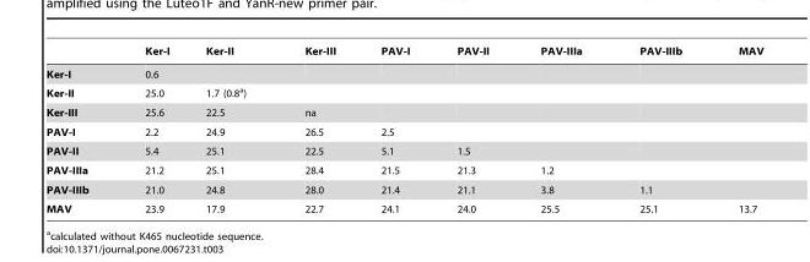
<table><thead><tr><td></td><td>Ker-I</td><td>Ker-II</td><td>Ker-III</td><td>PAV-I</td><td>PAV-II</td><td>PAV-IIIa</td><td>PAV-IIIb</td><td>MAV</td></tr></thead><tbody><tr><td>Ker-I</td><td>0.6</td><td></td><td></td><td></td><td></td><td></td><td></td><td></td></tr><tr><td>Ker-II</td><td>25.0</td><td>1.7 (0.8<sup>a</sup>)</td><td></td><td></td><td></td><td></td><td></td><td></td></tr><tr><td>Ker-III</td><td>25.6</td><td>22.5</td><td>na</td><td></td><td></td><td></td><td></td><td></td></tr><tr><td>PAV-I</td><td>2.2</td><td>24.9</td><td>26.5</td><td>2.5</td><td></td><td></td><td></td><td></td></tr><tr><td>PAV-II</td><td>5.4</td><td>25.1</td><td>22.5</td><td>5.1</td><td>1.5</td><td></td><td></td><td></td></tr><tr><td>PAV-IIIa</td><td>21.2</td><td>25.1</td><td>28.4</td><td>21.5</td><td>21.3</td><td>1.2</td><td></td><td></td></tr><tr><td>PAV-IIIb</td><td>21.0</td><td>24.8</td><td>28.0</td><td>21.4</td><td>21.1</td><td>3.8</td><td>1.1</td><td></td></tr><tr><td>MAV</td><td>23.9</td><td>17.9</td><td>22.7</td><td>24.1</td><td>24.0</td><td>25.5</td><td>25.1</td><td>13.7</td></tr></tbody></table>